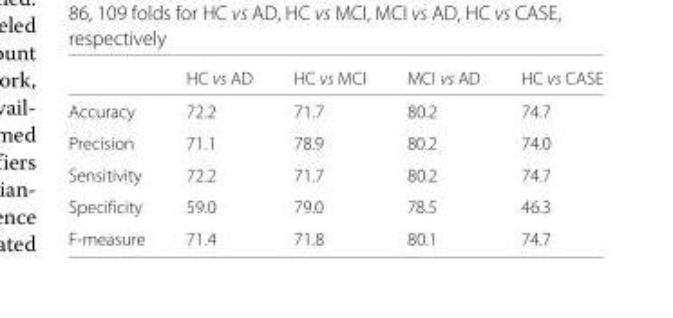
<table><thead><tr><td></td><td>HC vs AD</td><td>HC vs MCI</td><td>MCI vs AD</td><td>HC vs CASE</td></tr></thead><tbody><tr><td>Accuracy</td><td>72.2</td><td>71.7</td><td>80.2</td><td>74.7</td></tr><tr><td>Precision</td><td>71.1</td><td>78.9</td><td>80.2</td><td>74.0</td></tr><tr><td>Sensitivity</td><td>72.2</td><td>71.7</td><td>80.2</td><td>74.7</td></tr><tr><td>Specificity</td><td>59.0</td><td>79.0</td><td>78.5</td><td>46.3</td></tr><tr><td>F-measure</td><td>71.4</td><td>71.8</td><td>80.1</td><td>74.7</td></tr></tbody></table>